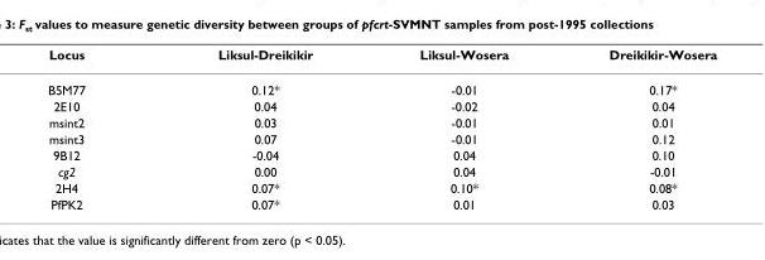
<table><thead><tr><td>Locus</td><td>Liksul-Dreikikir</td><td>Liksul-Wosera</td><td>Dreikikir-Wosera</td></tr></thead><tbody><tr><td>B5M77</td><td>0.12*</td><td>-0.01</td><td>0.17*</td></tr><tr><td>2E10</td><td>0.04</td><td>-0.02</td><td>0.04</td></tr><tr><td>msint2</td><td>0.03</td><td>-0.01</td><td>0.01</td></tr><tr><td>msint3</td><td>0.07</td><td>-0.01</td><td>0.12</td></tr><tr><td>9B12</td><td>-0.04</td><td>0.04</td><td>0.10</td></tr><tr><td>cg2</td><td>0.00</td><td>0.04</td><td>-0.01</td></tr><tr><td>2H4</td><td>0.07*</td><td>0.10*</td><td>0.08*</td></tr><tr><td>PfPK2</td><td>0.07*</td><td>0.01</td><td>0.03</td></tr></tbody></table>